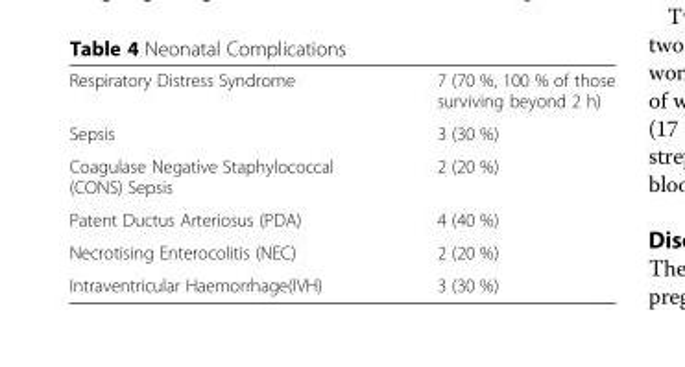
<table><tbody><tr><td>Respiratory Distress Syndrome</td><td>7 (70 %, 100 % of those surviving beyond 2 h)</td></tr><tr><td>Sepsis</td><td>3 (30 %)</td></tr><tr><td>Coagulase Negative Staphylococcal (CONS) Sepsis</td><td>2 (20 %)</td></tr><tr><td>Patent Ductus Arteriosus (PDA)</td><td>4 (40 %)</td></tr><tr><td>Necrotising Enterocolitis (NEC)</td><td>2 (20 %)</td></tr><tr><td>Intraventricular Haemorrhage(IVH)</td><td>3 (30 %)</td></tr></tbody></table>